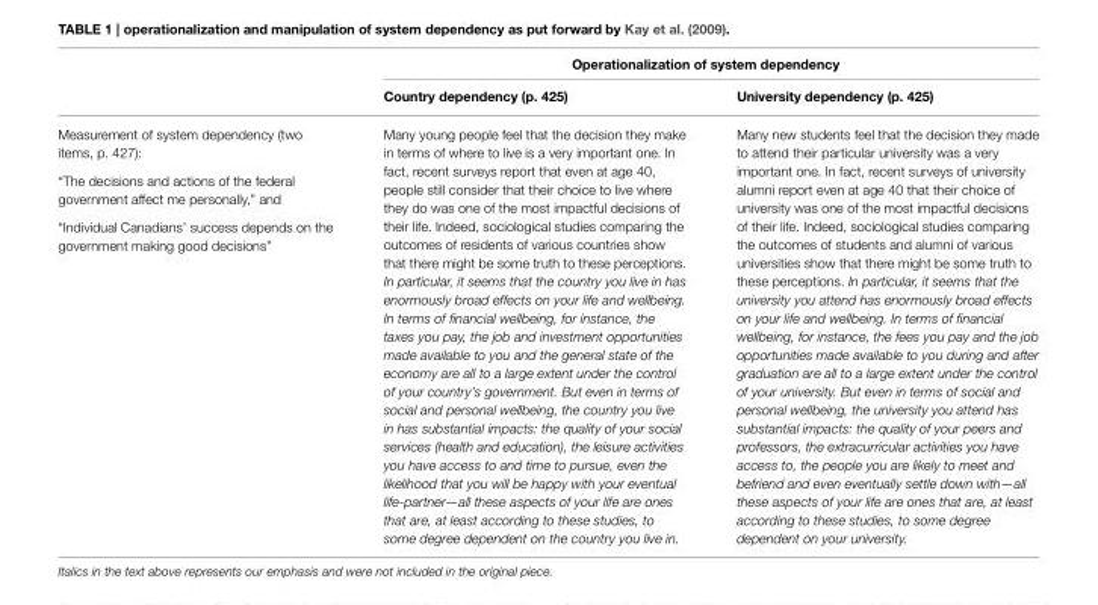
<table><thead><tr><td rowspan="2"></td><td colspan="2">Operationalization of system dependency</td></tr><tr><td>Country dependency (p. 425)</td><td>University dependency (p. 425)</td></tr></thead><tbody><tr><td>Measurement of system dependency (two items, p. 427): “The decisions and actions of the federal government affect me personally,” and “Individual Canadians’ success depends on the government making good decisions”</td><td>Many young people feel that the decision they make in terms of where to live is a very important one. In fact, recent surveys report that even at age 40, people still consider that their choice to live where they do was one of the most impactful decisions of their life. Indeed, sociological studies comparing the outcomes of residents of various countries show that there might be some truth to these perceptions. In particular, it seems that the country you live in has enormously broad effects on your life and wellbeing. In terms of financial wellbeing, for instance, the taxes you pay, the job and investment opportunities made available to you and the general state of the economy are all to a large extent under the control of your country’s government. But even in terms of social and personal wellbeing, the country you live in has substantial impacts: the quality of your social services (health and education), the leisure activities you have access to and time to pursue, even the likelihood that you will be happy with your eventual life-partner—all these aspects of your life are ones that are, at least according to these studies, to some degree dependent on the country you live in.</td><td>Many new students feel that the decision they made to attend their particular university was a very important one. In fact, recent surveys of university alumni report even at age 40 that their choice of university was one of the most impactful decisions of their life. Indeed, sociological studies comparing the outcomes of students and alumni of various universities show that there might be some truth to these perceptions. In particular, it seems that the university you attend has enormously broad effects on your life and wellbeing. In terms of financial wellbeing, for instance, the fees you pay and the job opportunities made available to you during and after graduation are all to a large extent under the control of your university. But even in terms of social and personal wellbeing, the university you attend has substantial impacts: the quality of your peers and professors, the extracurricular activities you have access to, the people you are likely to meet and befriend and even eventually settle down with—all these aspects of your life are ones that are, at least according to these studies, to some degree dependent on your university.</td></tr></tbody></table>